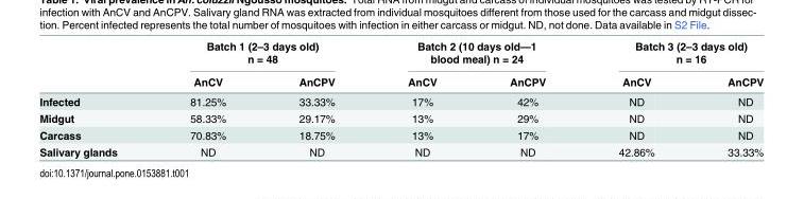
<table><thead><tr><td rowspan="2"></td><td colspan="2">Batch 1 (2–3 days old) n = 48</td><td colspan="2">Batch 2 (10 days old—1 blood meal) n = 24</td><td colspan="2">Batch 3 (2–3 days old) n = 16</td></tr><tr><td>AnCV</td><td>AnCPV</td><td>AnCV</td><td>AnCPV</td><td>AnCV</td><td>AnCPV</td></tr></thead><tbody><tr><td>Infected</td><td>81.25%</td><td>33.33%</td><td>17%</td><td>42%</td><td>ND</td><td>ND</td></tr><tr><td>Midgut</td><td>58.33%</td><td>29.17%</td><td>13%</td><td>29%</td><td>ND</td><td>ND</td></tr><tr><td>Carcass</td><td>70.83%</td><td>18.75%</td><td>13%</td><td>17%</td><td>ND</td><td>ND</td></tr><tr><td>Salivary glands</td><td>ND</td><td>ND</td><td>ND</td><td>ND</td><td>42.86%</td><td>33.33%</td></tr></tbody></table>